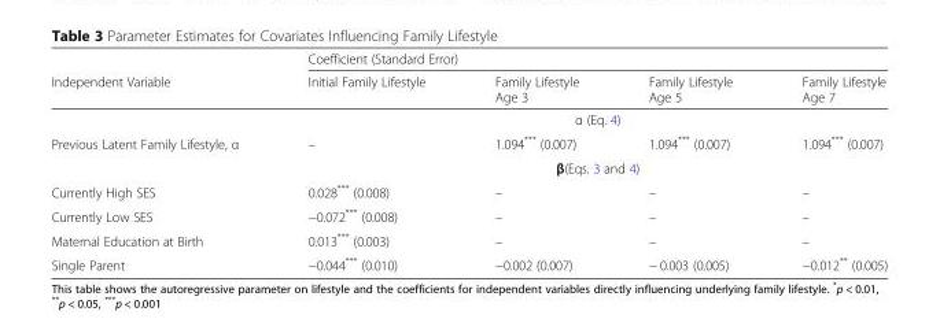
<table><thead><tr><td rowspan="2">Independent Variable</td><td colspan="4">Coefficient (Standard Error)</td></tr><tr><td>Initial Family Lifestyle</td><td>Family Lifestyle Age 3</td><td>Family Lifestyle Age 5</td><td>Family Lifestyle Age 7</td></tr></thead><tbody><tr><td></td><td colspan="4">α (Eq. 4)</td></tr><tr><td rowspan="2">Previous Latent Family Lifestyle, α</td><td>–</td><td>1.094*** (0.007)</td><td>1.094*** (0.007)</td><td>1.094*** (0.007)</td></tr><tr><td colspan="4">β(Eqs. 3 and 4)</td></tr><tr><td>Currently High SES</td><td>0.028*** (0.008)</td><td>–</td><td>–</td><td>–</td></tr><tr><td>Currently Low SES</td><td>−0.072*** (0.008)</td><td>–</td><td>–</td><td>–</td></tr><tr><td>Maternal Education at Birth</td><td>0.013*** (0.003)</td><td>–</td><td>–</td><td>–</td></tr><tr><td>Single Parent</td><td>−0.044*** (0.010)</td><td>−0.002 (0.007)</td><td>− 0.003 (0.005)</td><td>−0.012** (0.005)</td></tr></tbody></table>